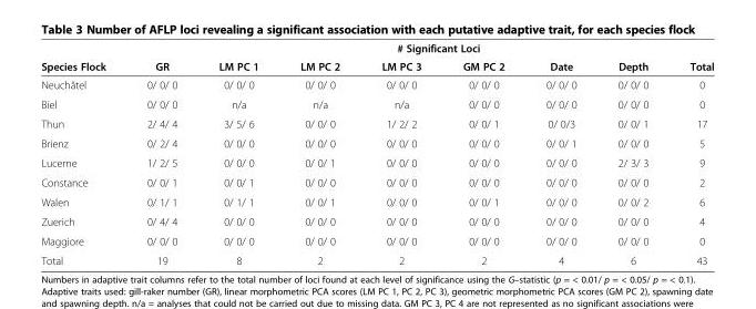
<table><thead><tr><td rowspan="2">Species Flock</td><td rowspan="2">GR</td><td rowspan="2">LM PC 1</td><td colspan="4"># Significant Loci</td><td rowspan="2">Depth</td><td rowspan="2">Total</td></tr><tr><td>LM PC 2</td><td>LM PC 3</td><td>GM PC 2</td><td>Date</td></tr></thead><tbody><tr><td>Neuchâtel</td><td>0/ 0/ 0</td><td>0/ 0/ 0</td><td>0/ 0/ 0</td><td>0/ 0/ 0</td><td>0/ 0/ 0</td><td>0/ 0/ 0</td><td>0/ 0/ 0</td><td>0</td></tr><tr><td>Biel</td><td>0/ 0/ 0</td><td>n/a</td><td>n/a</td><td>n/a</td><td>0/ 0/ 0</td><td>0/ 0/ 0</td><td>0/ 0/ 0</td><td>0</td></tr><tr><td>Thun</td><td>2/ 4/ 4</td><td>3/ 5/ 6</td><td>0/ 0/ 0</td><td>1/ 2/ 2</td><td>0/ 0/ 1</td><td>0/ 0/3</td><td>0/ 0/ 1</td><td>17</td></tr><tr><td>Brienz</td><td>0/ 2/ 4</td><td>0/ 0/ 0</td><td>0/ 0/ 0</td><td>0/ 0/ 0</td><td>0/ 0/ 0</td><td>0/ 0/ 1</td><td>0/ 0/ 0</td><td>5</td></tr><tr><td>Lucerne</td><td>1/ 2/ 5</td><td>0/ 0/ 0</td><td>0/ 0/ 1</td><td>0/ 0/ 0</td><td>0/ 0/ 0</td><td>0/ 0/ 0</td><td>2/ 3/ 3</td><td>9</td></tr><tr><td>Constance</td><td>0/ 0/ 1</td><td>0/ 0/ 1</td><td>0/ 0/ 0</td><td>0/ 0/ 0</td><td>0/ 0/ 0</td><td>0/ 0/ 0</td><td>0/ 0/ 0</td><td>2</td></tr><tr><td>Walen</td><td>0/ 1/ 1</td><td>0/ 1/ 1</td><td>0/ 0/ 1</td><td>0/ 0/ 0</td><td>0/ 0/ 1</td><td>0/ 0/ 0</td><td>0/ 0/ 2</td><td>6</td></tr><tr><td>Zuerich</td><td>0/ 4/ 4</td><td>0/ 0/ 0</td><td>0/ 0/ 0</td><td>0/ 0/ 0</td><td>0/ 0/ 0</td><td>0/ 0/ 0</td><td>0/ 0/ 0</td><td>4</td></tr><tr><td>Maggiore</td><td>0/ 0/ 0</td><td>0/ 0/ 0</td><td>0/ 0/ 0</td><td>0/ 0/ 0</td><td>0/ 0/ 0</td><td>0/ 0/ 0</td><td>0/ 0/ 0</td><td>0</td></tr><tr><td>Total</td><td>19</td><td>8</td><td>2</td><td>2</td><td>2</td><td>4</td><td>6</td><td>43</td></tr></tbody></table>